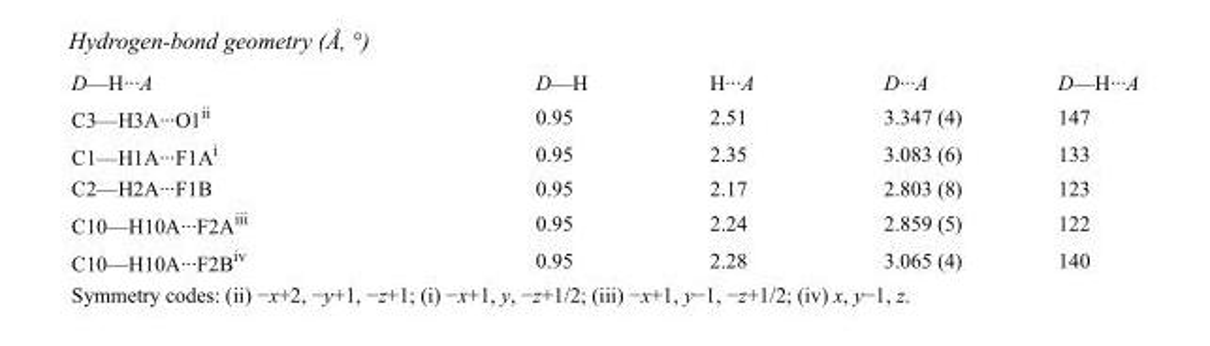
<table><tbody><tr><td>D—H···A</td><td>D—H</td><td>H···A</td><td>D···A</td><td>D—H···A</td></tr><tr><td>C3—H3A···O1<sup>ii</sup></td><td>0.95</td><td>2.51</td><td>3.347 (4)</td><td>147</td></tr><tr><td>C1—H1A···F1A<sup>i</sup></td><td>0.95</td><td>2.35</td><td>3.083 (6)</td><td>133</td></tr><tr><td>C2—H2A···F1B</td><td>0.95</td><td>2.17</td><td>2.803 (8)</td><td>123</td></tr><tr><td>C10—H10A···F2A<sup>iii</sup></td><td>0.95</td><td>2.24</td><td>2.859 (5)</td><td>122</td></tr><tr><td>C10—H10A···F2B<sup>iv</sup></td><td>0.95</td><td>2.28</td><td>3.065 (4)</td><td>140</td></tr></tbody></table>